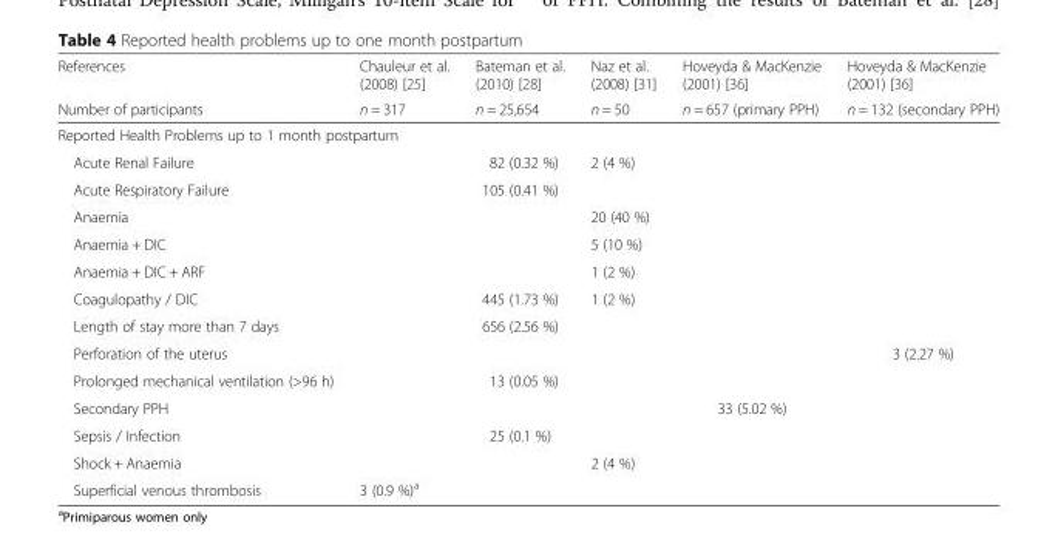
<table><thead><tr><td rowspan="2">References Number of participants</td><td rowspan="2">Chauleur et al. (2008) [25] n = 317</td><td rowspan="2">Bateman et al. (2010) [28] n = 25,654</td><td rowspan="2">Naz et al. (2008) [31] n = 50</td><td rowspan="2">Hoveyda &amp; MacKenzie (2001) [36] n = 657 (primary PPH)</td><td rowspan="2">Hoveyda &amp; MacKenzie (2001) [36] n = 132 (secondary PPH)</td></tr><tr></tr></thead><tbody><tr><td colspan="6">Reported Health Problems up to 1 month postpartum</td></tr><tr><td>Acute Renal Failure</td><td></td><td>82 (0.32 %)</td><td>2 (4 %)</td><td></td><td></td></tr><tr><td>Acute Respiratory Failure</td><td></td><td>105 (0.41 %)</td><td></td><td></td><td></td></tr><tr><td>Anaemia</td><td></td><td></td><td>20 (40 %)</td><td></td><td></td></tr><tr><td>Anaemia + DIC</td><td></td><td></td><td>5 (10 %)</td><td></td><td></td></tr><tr><td>Anaemia + DIC + ARF</td><td></td><td></td><td>1 (2 %)</td><td></td><td></td></tr><tr><td>Coagulopathy / DIC</td><td></td><td>445 (1.73 %)</td><td>1 (2 %)</td><td></td><td></td></tr><tr><td>Length of stay more than 7 days</td><td></td><td>656 (2.56 %)</td><td></td><td></td><td></td></tr><tr><td>Perforation of the uterus</td><td></td><td></td><td></td><td></td><td>3 (2.27 %)</td></tr><tr><td>Prolonged mechanical ventilation (&gt;96 h)</td><td></td><td>13 (0.05 %)</td><td></td><td></td><td></td></tr><tr><td>Secondary PPH</td><td></td><td></td><td></td><td>33 (5.02 %)</td><td></td></tr><tr><td>Sepsis / Infection</td><td></td><td>25 (0.1 %)</td><td></td><td></td><td></td></tr><tr><td>Shock + Anaemia</td><td></td><td></td><td>2 (4 %)</td><td></td><td></td></tr><tr><td>Superficial venous thrombosis</td><td>3 (0.9 %)<sup>a</sup></td><td></td><td></td><td></td><td></td></tr></tbody></table>